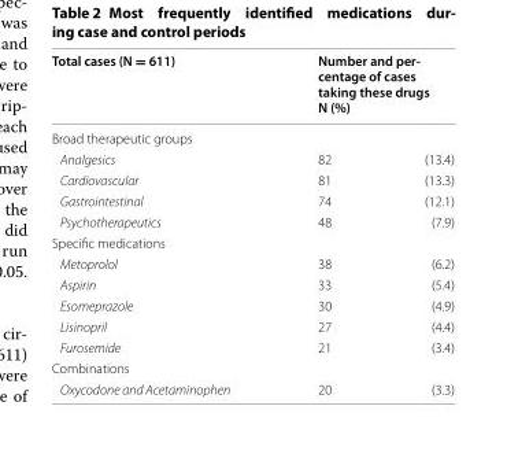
<table><thead><tr><td>Total cases (N = 611)</td><td colspan="2">Number and per- centage of cases taking these drugs N (%)</td></tr><tr><td colspan="3">Broad therapeutic groups</td></tr><tr><td>Analgesics</td><td>82</td><td>(13.4)</td></tr></thead><tbody><tr><td>Cardiovascular</td><td>81</td><td>(13.3)</td></tr><tr><td>Gastrointestinal</td><td>74</td><td>(12.1)</td></tr><tr><td>Psychotherapeutics</td><td>48</td><td>(7.9)</td></tr><tr><td colspan="3">Specific medications</td></tr><tr><td>Metoprolol</td><td>38</td><td>(6.2)</td></tr><tr><td>Aspirin</td><td>33</td><td>(5.4)</td></tr><tr><td>Esomeprazole</td><td>30</td><td>(4.9)</td></tr><tr><td>Lisinopril</td><td>27</td><td>(4.4)</td></tr><tr><td>Furosemide</td><td>21</td><td>(3.4)</td></tr><tr><td colspan="3">Combinations</td></tr><tr><td>Oxycodone and Acetaminophen</td><td>20</td><td>(3.3)</td></tr></tbody></table>